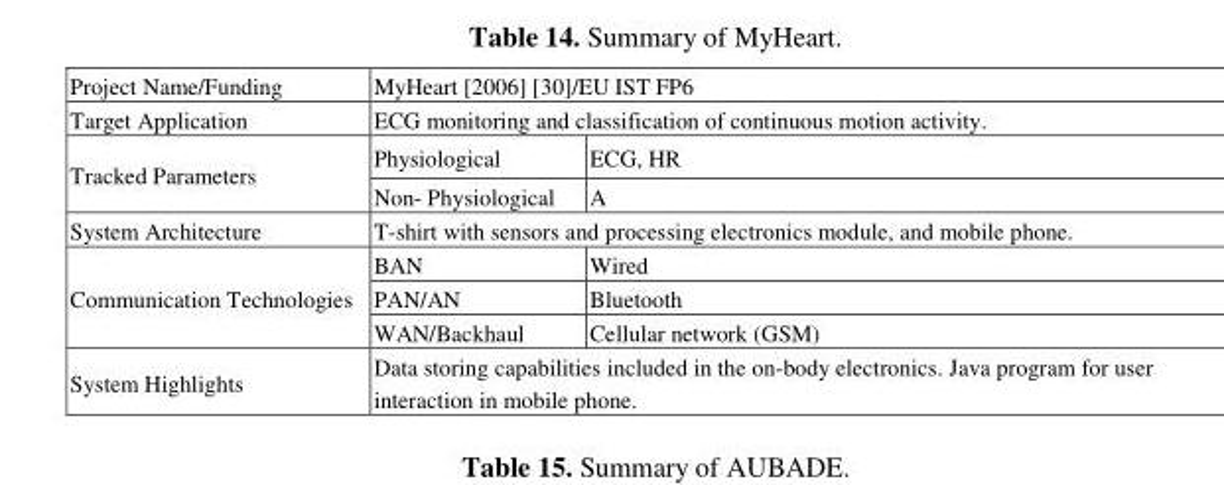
<table><tbody><tr><td>Project Name/Funding</td><td colspan="2">MyHeart [2006] [30]/EU IST FP6</td></tr><tr><td>Target Application</td><td colspan="2">ECG monitoring and classification of continuous motion activity.</td></tr><tr><td rowspan="2">Tracked Parameters</td><td>Physiological</td><td>ECG, HR</td></tr><tr><td>Non- Physiological</td><td>A</td></tr><tr><td>System Architecture</td><td colspan="2">T-shirt with sensors and processing electronics module, and mobile phone.</td></tr><tr><td rowspan="3">Communication Technologies</td><td>BAN</td><td>Wired</td></tr><tr><td>PAN/AN</td><td>Bluetooth</td></tr><tr><td>WAN/Backhaul</td><td>Cellular network (GSM)</td></tr><tr><td>System Highlights</td><td colspan="2">Data storing capabilities included in the on-body electronics. Java program for user interaction in mobile phone.</td></tr></tbody></table>